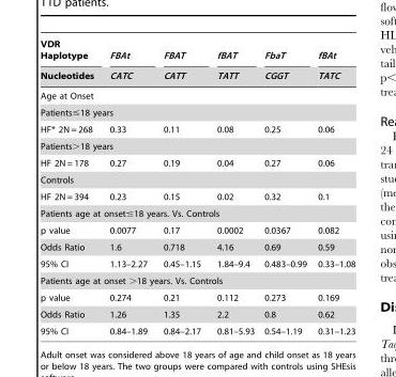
<table><thead><tr><td rowspan="2">VDR Haplotype Nucleotides</td><td rowspan="2">FBAt CATC</td><td rowspan="2">FBAT CATT</td><td rowspan="2">fBAT TATT</td><td rowspan="2">FbaT CGGT</td><td rowspan="2">fBAt TATC</td></tr><tr></tr></thead><tbody><tr><td colspan="6">Age at Onset</td></tr><tr><td colspan="6">Patients≤18 years</td></tr><tr><td>HF* 2N = 268</td><td>0.33</td><td>0.11</td><td>0.08</td><td>0.25</td><td>0.06</td></tr><tr><td colspan="6">Patients&gt;18 years</td></tr><tr><td>HF 2N = 178</td><td>0.27</td><td>0.19</td><td>0.04</td><td>0.27</td><td>0.06</td></tr><tr><td colspan="6">Controls</td></tr><tr><td>HF 2N = 394</td><td>0.23</td><td>0.15</td><td>0.02</td><td>0.32</td><td>0.1</td></tr><tr><td colspan="6">Patients age at onset≤18 years. Vs. Controls</td></tr><tr><td>p value</td><td>0.0077</td><td>0.17</td><td>0.0002</td><td>0.0367</td><td>0.082</td></tr><tr><td>Odds Ratio</td><td>1.6</td><td>0.718</td><td>4.16</td><td>0.69</td><td>0.59</td></tr><tr><td>95% CI</td><td>1.13–2.27</td><td>0.45–1.15</td><td>1.84–9.4</td><td>0.483–0.99</td><td>0.33–1.08</td></tr><tr><td colspan="6">Patients age at onset &gt;18 years. Vs. Controls</td></tr><tr><td>p value</td><td>0.274</td><td>0.21</td><td>0.112</td><td>0.273</td><td>0.169</td></tr><tr><td>Odds Ratio</td><td>1.26</td><td>1.35</td><td>2.2</td><td>0.8</td><td>0.62</td></tr><tr><td>95% CI</td><td>0.84–1.89</td><td>0.84–2.17</td><td>0.81–5.93</td><td>0.54–1.19</td><td>0.31–1.23</td></tr></tbody></table>